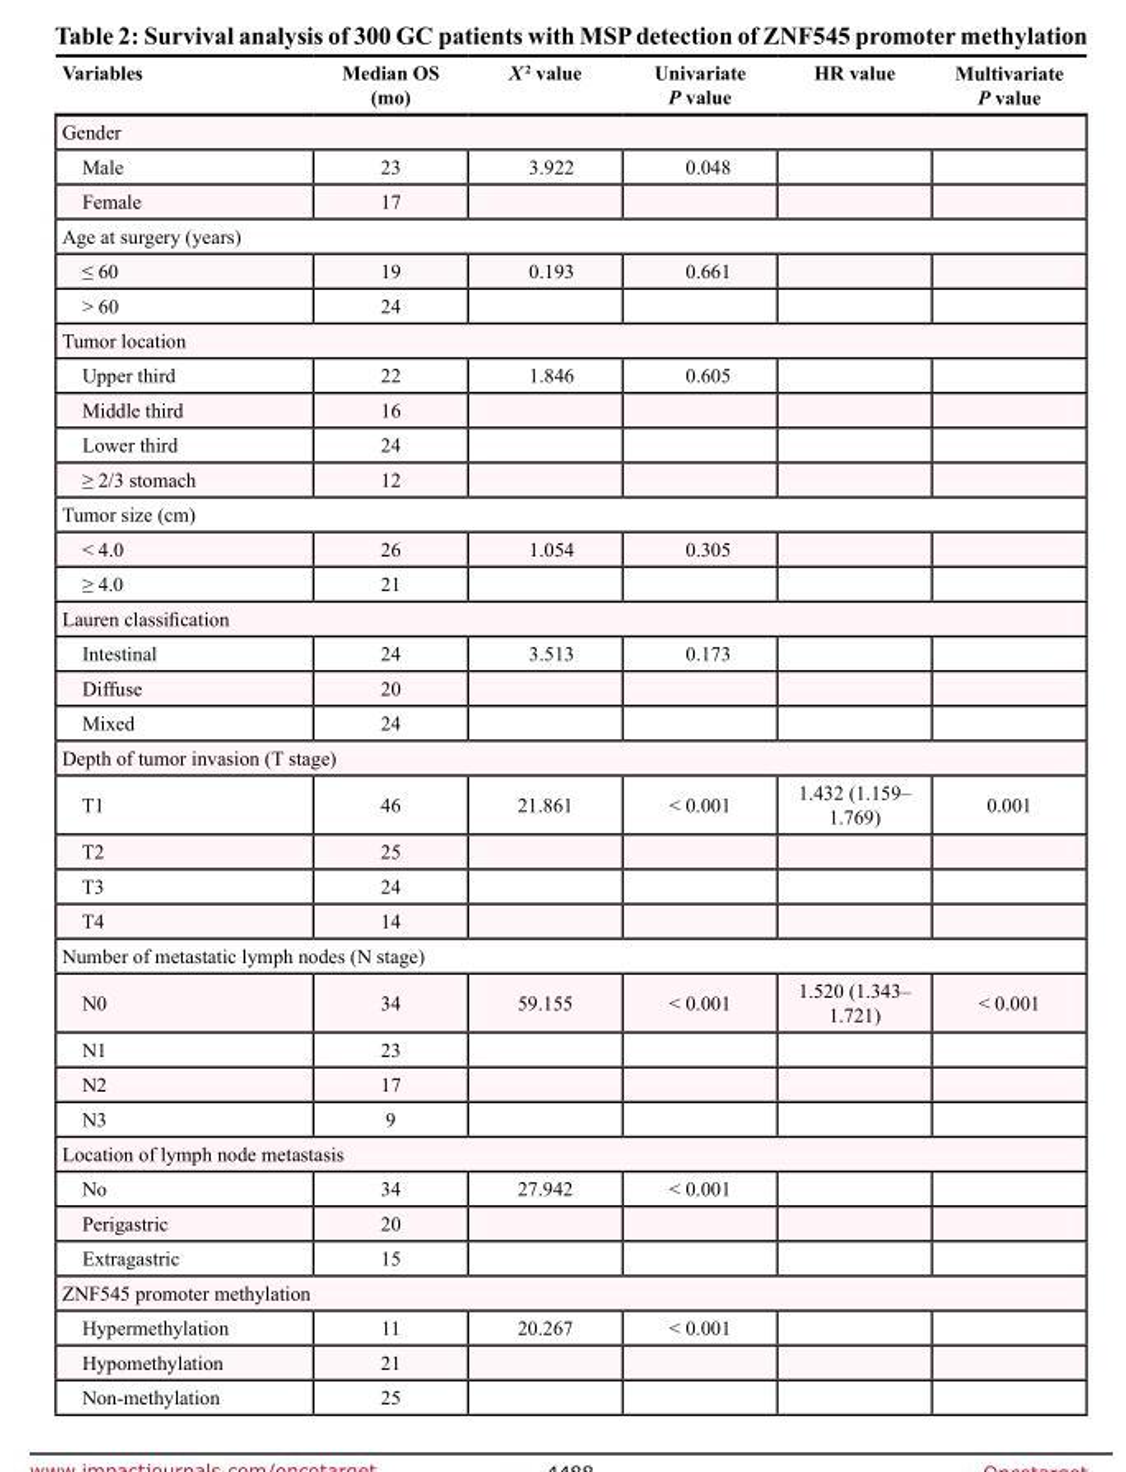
<table><thead><tr><td>Variables</td><td>Median OS (mo)</td><td>X <sup>2</sup> value</td><td>Univariate P value</td><td>HR value</td><td>Multivariate P value</td></tr></thead><tbody><tr><td colspan="6">Gender</td></tr><tr><td>Male</td><td>23</td><td>3.922</td><td>0.048</td><td></td><td></td></tr><tr><td>Female</td><td>17</td><td></td><td></td><td></td><td></td></tr><tr><td colspan="6">Age at surgery (years)</td></tr><tr><td>≤ 60</td><td>19</td><td>0.193</td><td>0.661</td><td></td><td></td></tr><tr><td>&gt; 60</td><td>24</td><td></td><td></td><td></td><td></td></tr><tr><td colspan="6">Tumor location</td></tr><tr><td>Upper third</td><td>22</td><td>1.846</td><td>0.605</td><td></td><td></td></tr><tr><td>Middle third</td><td>16</td><td></td><td></td><td></td><td></td></tr><tr><td>Lower third</td><td>24</td><td></td><td></td><td></td><td></td></tr><tr><td>≥ 2/3 stomach</td><td>12</td><td></td><td></td><td></td><td></td></tr><tr><td colspan="6">Tumor size (cm)</td></tr><tr><td>&lt; 4.0</td><td>26</td><td>1.054</td><td>0.305</td><td></td><td></td></tr><tr><td>≥ 4.0</td><td>21</td><td></td><td></td><td></td><td></td></tr><tr><td colspan="6">Lauren classification</td></tr><tr><td>Intestinal</td><td>24</td><td>3.513</td><td>0.173</td><td></td><td></td></tr><tr><td>Diffuse</td><td>20</td><td></td><td></td><td></td><td></td></tr><tr><td>Mixed</td><td>24</td><td></td><td></td><td></td><td></td></tr><tr><td colspan="6">Depth of tumor invasion (T stage)</td></tr><tr><td>T1</td><td>46</td><td>21.861</td><td>&lt; 0.001</td><td>1.432 (1.159– 1.769)</td><td>0.001</td></tr><tr><td>T2</td><td>25</td><td></td><td></td><td></td><td></td></tr><tr><td>T3</td><td>24</td><td></td><td></td><td></td><td></td></tr><tr><td>T4</td><td>14</td><td></td><td></td><td></td><td></td></tr><tr><td colspan="6">Number of metastatic lymph nodes (N stage)</td></tr><tr><td>N0</td><td>34</td><td>59.155</td><td>&lt; 0.001</td><td>1.520 (1.343– 1.721)</td><td>&lt; 0.001</td></tr><tr><td>N1</td><td>23</td><td></td><td></td><td></td><td></td></tr><tr><td>N2</td><td>17</td><td></td><td></td><td></td><td></td></tr><tr><td>N3</td><td>9</td><td></td><td></td><td></td><td></td></tr><tr><td colspan="6">Location of lymph node metastasis</td></tr><tr><td>No</td><td>34</td><td>27.942</td><td>&lt; 0.001</td><td></td><td></td></tr><tr><td>Perigastric</td><td>20</td><td></td><td></td><td></td><td></td></tr><tr><td>Extragastric</td><td>15</td><td></td><td></td><td></td><td></td></tr><tr><td colspan="6">ZNF545 promoter methylation</td></tr><tr><td>Hypermethylation</td><td>11</td><td>20.267</td><td>&lt; 0.001</td><td></td><td></td></tr><tr><td>Hypomethylation</td><td>21</td><td></td><td></td><td></td><td></td></tr><tr><td>Non-methylation</td><td>25</td><td></td><td></td><td></td><td></td></tr></tbody></table>